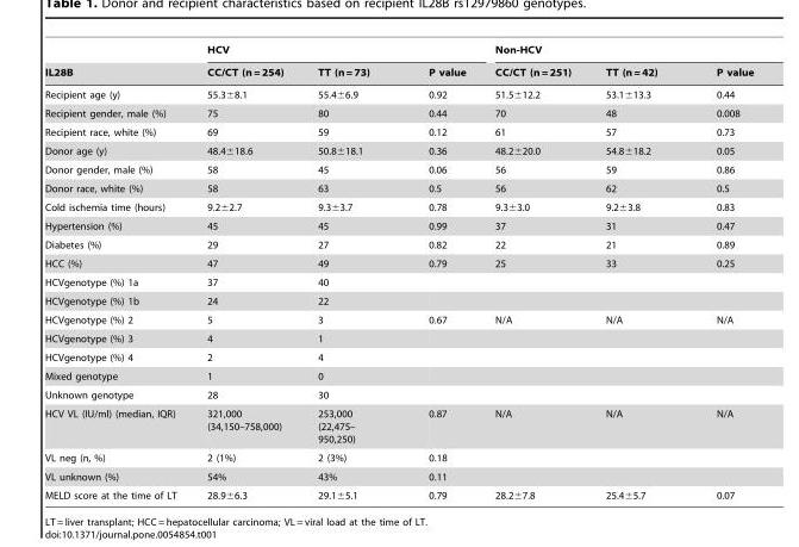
<table><thead><tr><td rowspan="2">IL28B</td><td colspan="3">HCV</td><td colspan="3">Non-HCV</td></tr><tr><td>CC/CT (n = 254)</td><td>TT (n = 73)</td><td>P value</td><td>CC/CT (n = 251)</td><td>TT (n = 42)</td><td>P value</td></tr></thead><tbody><tr><td>Recipient age (y)</td><td>55.3±8.1</td><td>55.4±6.9</td><td>0.92</td><td>51.5±12.2</td><td>53.1±13.3</td><td>0.44</td></tr><tr><td>Recipient gender, male (%)</td><td>75</td><td>80</td><td>0.44</td><td>70</td><td>48</td><td>0.008</td></tr><tr><td>Recipient race, white (%)</td><td>69</td><td>59</td><td>0.12</td><td>61</td><td>57</td><td>0.73</td></tr><tr><td>Donor age (y)</td><td>48.4±18.6</td><td>50.8±18.1</td><td>0.36</td><td>48.2±20.0</td><td>54.8±18.2</td><td>0.05</td></tr><tr><td>Donor gender, male (%)</td><td>58</td><td>45</td><td>0.06</td><td>56</td><td>59</td><td>0.86</td></tr><tr><td>Donor race, white (%)</td><td>58</td><td>63</td><td>0.5</td><td>56</td><td>62</td><td>0.5</td></tr><tr><td>Cold ischemia time (hours)</td><td>9.2±2.7</td><td>9.3±3.7</td><td>0.78</td><td>9.3±3.0</td><td>9.2±3.8</td><td>0.83</td></tr><tr><td>Hypertension (%)</td><td>45</td><td>45</td><td>0.99</td><td>37</td><td>31</td><td>0.47</td></tr><tr><td>Diabetes (%)</td><td>29</td><td>27</td><td>0.82</td><td>22</td><td>21</td><td>0.89</td></tr><tr><td>HCC (%)</td><td>47</td><td>49</td><td>0.79</td><td>25</td><td>33</td><td>0.25</td></tr><tr><td>HCVgenotype (%) 1a</td><td>37</td><td>40</td><td></td><td></td><td></td><td></td></tr><tr><td>HCVgenotype (%) 1b</td><td>24</td><td>22</td><td></td><td></td><td></td><td></td></tr><tr><td>HCVgenotype (%) 2</td><td>5</td><td>3</td><td>0.67</td><td>N/A</td><td>N/A</td><td>N/A</td></tr><tr><td>HCVgenotype (%) 3</td><td>4</td><td>1</td><td></td><td></td><td></td><td></td></tr><tr><td>HCVgenotype (%) 4</td><td>2</td><td>4</td><td></td><td></td><td></td><td></td></tr><tr><td>Mixed genotype</td><td>1</td><td>0</td><td></td><td></td><td></td><td></td></tr><tr><td>Unknown genotype</td><td>28</td><td>30</td><td></td><td></td><td></td><td></td></tr><tr><td>HCV VL (IU/ml) (median, IQR)</td><td>321,000 (34,150–758,000)</td><td>253,000 (22,475– 950,250)</td><td>0.87</td><td>N/A</td><td>N/A</td><td>N/A</td></tr><tr><td>VL neg (n, %)</td><td>2 (1%)</td><td>2 (3%)</td><td>0.18</td><td></td><td></td><td></td></tr><tr><td>VL unknown (%)</td><td>54%</td><td>43%</td><td>0.11</td><td></td><td></td><td></td></tr><tr><td>MELD score at the time of LT</td><td>28.9±6.3</td><td>29.1±5.1</td><td>0.79</td><td>28.2±7.8</td><td>25.4±5.7</td><td>0.07</td></tr></tbody></table>